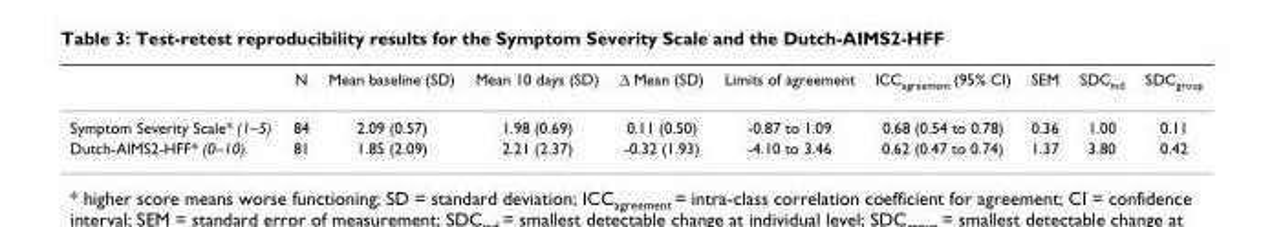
<table><thead><tr><td></td><td>N</td><td>Mean baseline (SD)</td><td>Mean 10 days (SD)</td><td>Δ Mean (SD)</td><td>Limits of agreement</td><td>ICC<sub>agreement</sub> (95% CI)</td><td>SEM</td><td>SDC<sub>ind</sub></td><td>SDC<sub>group</sub></td></tr></thead><tbody><tr><td>Symptom Severity Scale* (1–5)</td><td>84</td><td>2.09 (0.57)</td><td>1.98 (0.69)</td><td>0.11 (0.50)</td><td>-0.87 to 1.09</td><td>0.68 (0.54 to 0.78)</td><td>0.36</td><td>1.00</td><td>0.11</td></tr><tr><td>Dutch-AIMS2-HFF* (0–10)</td><td>81</td><td>1.85 (2.09)</td><td>2.21 (2.37)</td><td>-0.32 (1.93)</td><td>-4.10 to 3.46</td><td>0.62 (0.47 to 0.74)</td><td>1.37</td><td>3.80</td><td>0.42</td></tr></tbody></table>